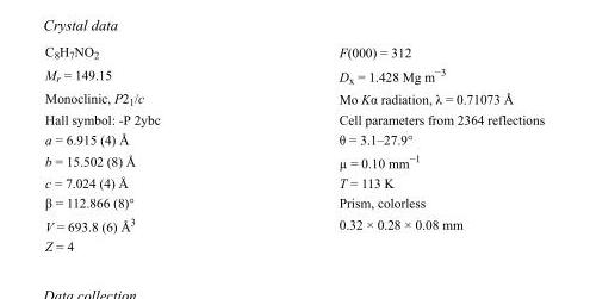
<table><tbody><tr><td>C<sub>8</sub>H<sub>7</sub>NO<sub>2</sub></td><td>F(000) = 312</td></tr><tr><td>M<sub>r</sub> = 149.15</td><td>D<sub>x</sub> = 1.428 Mg m<sup>−3</sup></td></tr><tr><td>Monoclinic, P2<sub>1</sub>/c</td><td>Mo Kα radiation, λ = 0.71073 Å</td></tr><tr><td>Hall symbol: -P 2ybc</td><td>Cell parameters from 2364 reflections</td></tr><tr><td>a = 6.915 (4) Å</td><td>θ = 3.1–27.9°</td></tr><tr><td>b = 15.502 (8) Å</td><td>µ = 0.10 mm<sup>−1</sup></td></tr><tr><td>c = 7.024 (4) Å</td><td>T = 113 K</td></tr><tr><td>β = 112.866 (8)°</td><td>Prism, colorless</td></tr><tr><td>V = 693.8 (6) Å<sup>3</sup></td><td>0.32 × 0.28 × 0.08 mm</td></tr><tr><td>Z = 4</td><td></td></tr></tbody></table>